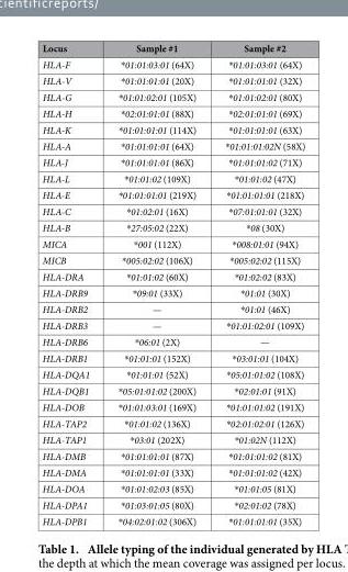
<table><thead><tr><td>Locus</td><td>Sample #1</td><td>Sample #2</td></tr></thead><tbody><tr><td>HLA-F</td><td>*01:01:03:01 (64X)</td><td>*01:01:03:01 (64X)</td></tr><tr><td>HLA-V</td><td>*01:01:01:01 (20X)</td><td>*01:01:01:01 (32X)</td></tr><tr><td>HLA-G</td><td>*01:01:02:01 (105X)</td><td>*01:01:02:01 (80X)</td></tr><tr><td>HLA-H</td><td>*02:01:01:01 (88X)</td><td>*02:01:01:01 (69X)</td></tr><tr><td>HLA-K</td><td>*01:01:01:01 (114X)</td><td>*01:01:01:01 (63X)</td></tr><tr><td>HLA-A</td><td>*01:01:01:01 (64X)</td><td>*01:01:01:02N (58X)</td></tr><tr><td>HLA-J</td><td>*01:01:01:01 (86X)</td><td>*01:01:01:02 (71X)</td></tr><tr><td>HLA-L</td><td>*01:01:02 (109X)</td><td>*01:01:02 (47X)</td></tr><tr><td>HLA-E</td><td>*01:01:01:01 (219X)</td><td>*01:01:01:01 (218X)</td></tr><tr><td>HLA-C</td><td>*01:02:01 (16X)</td><td>*07:01:01:01 (32X)</td></tr><tr><td>HLA-B</td><td>*27:05:02 (22X)</td><td>*08 (30X)</td></tr><tr><td>MICA</td><td>*001 (112X)</td><td>*008:01:01 (94X)</td></tr><tr><td>MICB</td><td>*005:02:02 (106X)</td><td>*005:02:02 (115X)</td></tr><tr><td>HLA-DRA</td><td>*01:01:02 (60X)</td><td>*01:02:02 (83X)</td></tr><tr><td>HLA-DRB9</td><td>*09:01 (33X)</td><td>*01:01 (30X)</td></tr><tr><td>HLA-DRB2</td><td>—</td><td>*01:01 (46X)</td></tr><tr><td>HLA-DRB3</td><td>—</td><td>*01:01:02:01 (109X)</td></tr><tr><td>HLA-DRB6</td><td>*06:01 (2X)</td><td>—</td></tr><tr><td>HLA-DRB1</td><td>*01:01:01 (152X)</td><td>*03:01:01 (104X)</td></tr><tr><td>HLA-DQA1</td><td>*01:01:01 (52X)</td><td>*05:01:01:02 (108X)</td></tr><tr><td>HLA-DQB1</td><td>*05:01:01:02 (200X)</td><td>*02:01:01 (91X)</td></tr><tr><td>HLA-DOB</td><td>*01:01:03:01 (169X)</td><td>*01:01:01:02 (191X)</td></tr><tr><td>HLA-TAP2</td><td>*01:01:02 (136X)</td><td>*02:01:02:01 (126X)</td></tr><tr><td>HLA-TAP1</td><td>*03:01 (202X)</td><td>*01:02N (112X)</td></tr><tr><td>HLA-DMB</td><td>*01:01:01:01 (87X)</td><td>*01:01:01:02 (81X)</td></tr><tr><td>HLA-DMA</td><td>*01:01:01:01 (33X)</td><td>*01:01:01:02 (42X)</td></tr><tr><td>HLA-DOA</td><td>*01:01:02:03 (85X)</td><td>*01:01:05 (81X)</td></tr><tr><td>HLA-DPA1</td><td>*01:03:01:05 (80X)</td><td>*02:01:02 (78X)</td></tr><tr><td>HLA-DPB1</td><td>*04:02:01:02 (306X)</td><td>*01:01:01:01 (35X)</td></tr></tbody></table>